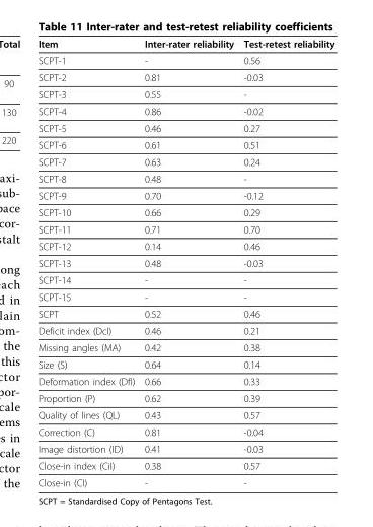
<table><thead><tr><td>Item</td><td>Inter-rater reliability</td><td>Test-retest reliability</td></tr></thead><tbody><tr><td>SCPT-1</td><td>-</td><td>0.56</td></tr><tr><td>SCPT-2</td><td>0.81</td><td>-0.03</td></tr><tr><td>SCPT-3</td><td>0.55</td><td>-</td></tr><tr><td>SCPT-4</td><td>0.86</td><td>-0.02</td></tr><tr><td>SCPT-5</td><td>0.46</td><td>0.27</td></tr><tr><td>SCPT-6</td><td>0.61</td><td>0.51</td></tr><tr><td>SCPT-7</td><td>0.63</td><td>0.24</td></tr><tr><td>SCPT-8</td><td>0.48</td><td>-</td></tr><tr><td>SCPT-9</td><td>0.70</td><td>-0.12</td></tr><tr><td>SCPT-10</td><td>0.66</td><td>0.29</td></tr><tr><td>SCPT-11</td><td>0.71</td><td>0.70</td></tr><tr><td>SCPT-12</td><td>0.14</td><td>0.46</td></tr><tr><td>SCPT-13</td><td>0.48</td><td>-0.03</td></tr><tr><td>SCPT-14</td><td>-</td><td>-</td></tr><tr><td>SCPT-15</td><td>-</td><td>-</td></tr><tr><td>SCPT</td><td>0.52</td><td>0.46</td></tr><tr><td>Deficit index (DcI)</td><td>0.46</td><td>0.21</td></tr><tr><td>Missing angles (MA)</td><td>0.42</td><td>0.38</td></tr><tr><td>Size (S)</td><td>0.64</td><td>0.14</td></tr><tr><td>Deformation index (DfI)</td><td>0.66</td><td>0.33</td></tr><tr><td>Proportion (P)</td><td>0.62</td><td>0.39</td></tr><tr><td>Quality of lines (QL)</td><td>0.43</td><td>0.57</td></tr><tr><td>Correction (C)</td><td>0.81</td><td>-0.04</td></tr><tr><td>Image distortion (ID)</td><td>0.41</td><td>-0.03</td></tr><tr><td>Close-in index (CiI)</td><td>0.38</td><td>0.57</td></tr><tr><td>Close-in (CI)</td><td>-</td><td>-</td></tr></tbody></table>